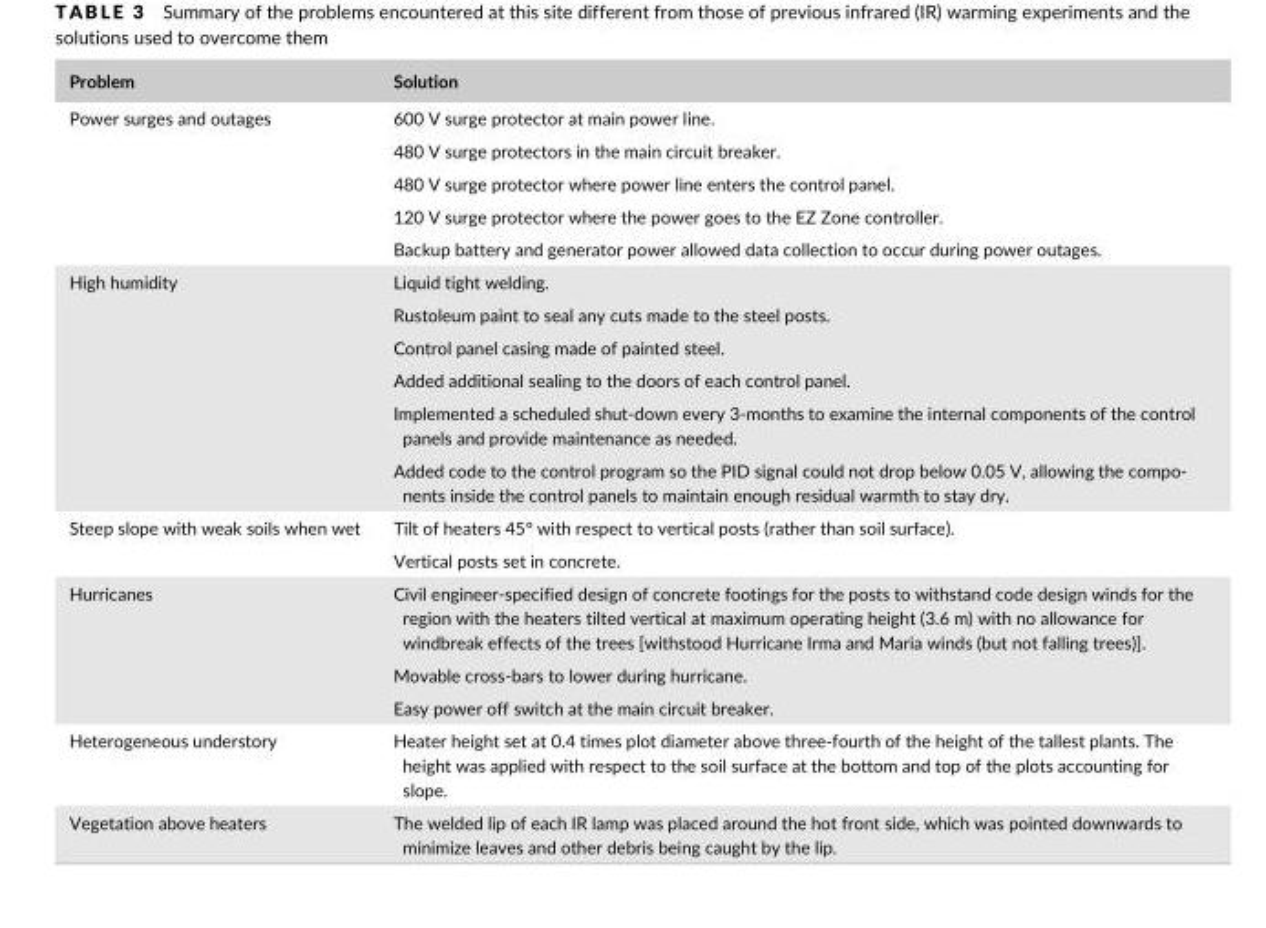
<table><thead><tr><td>Problem</td><td>Solution</td></tr></thead><tbody><tr><td rowspan="5">Power surges and outages</td><td>600 V surge protector at main power line.</td></tr><tr><td>480 V surge protectors in the main circuit breaker.</td></tr><tr><td>480 V surge protector where power line enters the control panel.</td></tr><tr><td>120 V surge protector where the power goes to the EZ Zone controller.</td></tr><tr><td>Backup battery and generator power allowed data collection to occur during power outages.</td></tr><tr><td rowspan="6">High humidity</td><td>Liquid tight welding.</td></tr><tr><td>Rustoleum paint to seal any cuts made to the steel posts.</td></tr><tr><td>Control panel casing made of painted steel.</td></tr><tr><td>Added additional sealing to the doors of each control panel.</td></tr><tr><td>Implemented a scheduled shut- down every 3- months to examine the internal components of the control panels and provide maintenance as needed.</td></tr><tr><td>Added code to the control program so the PID signal could not drop below 0.05 V, allowing the compo- nents inside the control panels to maintain enough residual warmth to stay dry.</td></tr><tr><td rowspan="2">Steep slope with weak soils when wet</td><td>Tilt of heaters 45° with respect to vertical posts (rather than soil surface).</td></tr><tr><td>Vertical posts set in concrete.</td></tr><tr><td rowspan="3">Hurricanes</td><td>Civil engineer- specified design of concrete footings for the posts to withstand code design winds for the region with the heaters tilted vertical at maximum operating height (3.6 m) with no allowance for windbreak effects of the trees [withstood Hurricane Irma and Maria winds (but not falling trees)].</td></tr><tr><td>Movable cross- bars to lower during hurricane.</td></tr><tr><td>Easy power off switch at the main circuit breaker.</td></tr><tr><td>Heterogeneous understory</td><td>Heater height set at 0.4 times plot diameter above three- fourth of the height of the tallest plants. The height was applied with respect to the soil surface at the bottom and top of the plots accounting for slope.</td></tr><tr><td>Vegetation above heaters</td><td>The welded lip of each IR lamp was placed around the hot front side, which was pointed downwards to minimize leaves and other debris being caught by the lip.</td></tr></tbody></table>